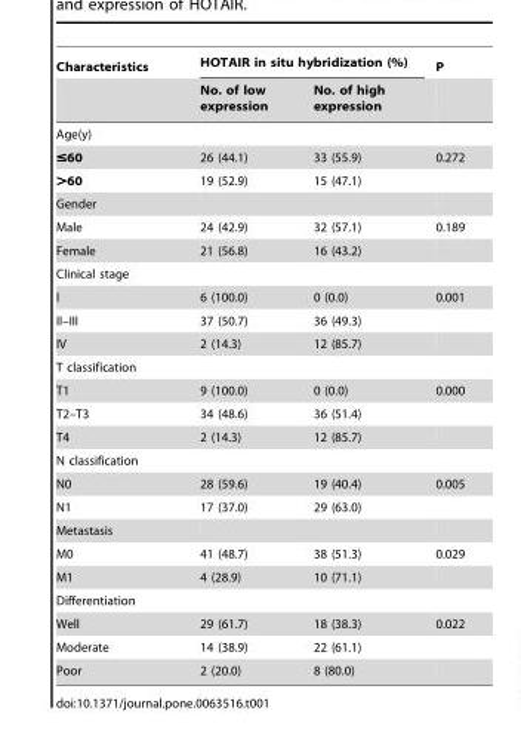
<table><thead><tr><td rowspan="2">Characteristics</td><td colspan="2">HOTAIR in situ hybridization (%)</td><td rowspan="2">P</td></tr><tr><td>No. of low expression</td><td>No. of high expression</td></tr></thead><tbody><tr><td colspan="4">Age(y)</td></tr><tr><td>≤60</td><td>26 (44.1)</td><td>33 (55.9)</td><td>0.272</td></tr><tr><td>&gt;60</td><td>19 (52.9)</td><td>15 (47.1)</td><td></td></tr><tr><td colspan="4">Gender</td></tr><tr><td>Male</td><td>24 (42.9)</td><td>32 (57.1)</td><td>0.189</td></tr><tr><td>Female</td><td>21 (56.8)</td><td>16 (43.2)</td><td></td></tr><tr><td colspan="4">Clinical stage</td></tr><tr><td>I</td><td>6 (100.0)</td><td>0 (0.0)</td><td>0.001</td></tr><tr><td>II–III</td><td>37 (50.7)</td><td>36 (49.3)</td><td></td></tr><tr><td>IV</td><td>2 (14.3)</td><td>12 (85.7)</td><td></td></tr><tr><td colspan="4">T classification</td></tr><tr><td>T1</td><td>9 (100.0)</td><td>0 (0.0)</td><td>0.000</td></tr><tr><td>T2–T3</td><td>34 (48.6)</td><td>36 (51.4)</td><td></td></tr><tr><td>T4</td><td>2 (14.3)</td><td>12 (85.7)</td><td></td></tr><tr><td colspan="4">N classification</td></tr><tr><td>N0</td><td>28 (59.6)</td><td>19 (40.4)</td><td>0.005</td></tr><tr><td>N1</td><td>17 (37.0)</td><td>29 (63.0)</td><td></td></tr><tr><td colspan="4">Metastasis</td></tr><tr><td>M0</td><td>41 (48.7)</td><td>38 (51.3)</td><td>0.029</td></tr><tr><td>M1</td><td>4 (28.9)</td><td>10 (71.1)</td><td></td></tr><tr><td colspan="4">Differentiation</td></tr><tr><td>Well</td><td>29 (61.7)</td><td>18 (38.3)</td><td>0.022</td></tr><tr><td>Moderate</td><td>14 (38.9)</td><td>22 (61.1)</td><td></td></tr><tr><td>Poor</td><td>2 (20.0)</td><td>8 (80.0)</td><td></td></tr></tbody></table>